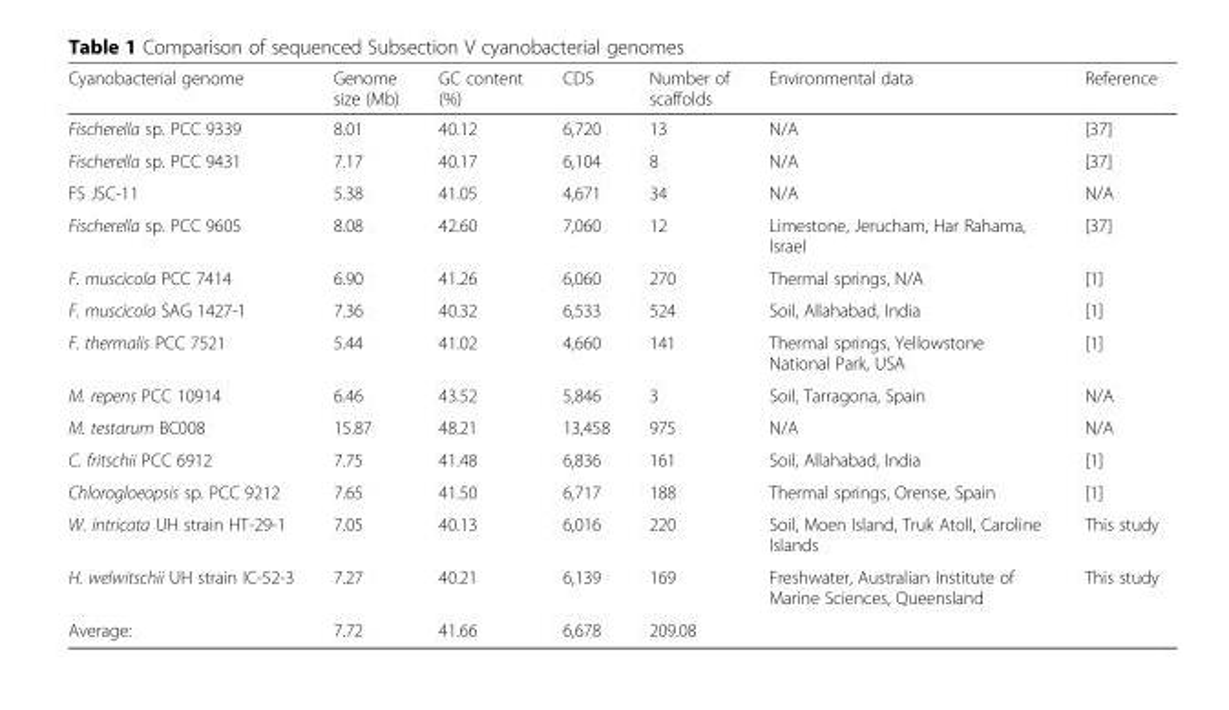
<table><thead><tr><td>Cyanobacterial genome</td><td>Genome size (Mb)</td><td>GC content (%)</td><td>CDS</td><td>Number of scaffolds</td><td>Environmental data</td><td>Reference</td></tr></thead><tbody><tr><td>Fischerella sp. PCC 9339</td><td>8.01</td><td>40.12</td><td>6,720</td><td>13</td><td>N/A</td><td>[37]</td></tr><tr><td>Fischerella sp. PCC 9431</td><td>7.17</td><td>40.17</td><td>6,104</td><td>8</td><td>N/A</td><td>[37]</td></tr><tr><td>FS JSC-11</td><td>5.38</td><td>41.05</td><td>4,671</td><td>34</td><td>N/A</td><td>N/A</td></tr><tr><td>Fischerella sp. PCC 9605</td><td>8.08</td><td>42.60</td><td>7,060</td><td>12</td><td>Limestone, Jerucham, Har Rahama, Israel</td><td>[37]</td></tr><tr><td>F. muscicola PCC 7414</td><td>6.90</td><td>41.26</td><td>6,060</td><td>270</td><td>Thermal springs, N/A</td><td>[1]</td></tr><tr><td>F. muscicola SAG 1427-1</td><td>7.36</td><td>40.32</td><td>6,533</td><td>524</td><td>Soil, Allahabad, India</td><td>[1]</td></tr><tr><td>F. thermalis PCC 7521</td><td>5.44</td><td>41.02</td><td>4,660</td><td>141</td><td>Thermal springs, Yellowstone National Park, USA</td><td>[1]</td></tr><tr><td>M. repens PCC 10914</td><td>6.46</td><td>43.52</td><td>5,846</td><td>3</td><td>Soil, Tarragona, Spain</td><td>N/A</td></tr><tr><td>M. testarum BC008</td><td>15.87</td><td>48.21</td><td>13,458</td><td>975</td><td>N/A</td><td>N/A</td></tr><tr><td>C. fritschii PCC 6912</td><td>7.75</td><td>41.48</td><td>6,836</td><td>161</td><td>Soil, Allahabad, India</td><td>[1]</td></tr><tr><td>Chlorogloeopsis sp. PCC 9212</td><td>7.65</td><td>41.50</td><td>6,717</td><td>188</td><td>Thermal springs, Orense, Spain</td><td>[1]</td></tr><tr><td>W. intricata UH strain HT-29-1</td><td>7.05</td><td>40.13</td><td>6,016</td><td>220</td><td>Soil, Moen Island, Truk Atoll, Caroline Islands</td><td>This study</td></tr><tr><td>H. welwitschii UH strain IC-52-3</td><td>7.27</td><td>40.21</td><td>6,139</td><td>169</td><td>Freshwater, Australian Institute of Marine Sciences, Queensland</td><td>This study</td></tr><tr><td>Average:</td><td>7.72</td><td>41.66</td><td>6,678</td><td>209.08</td><td></td><td></td></tr></tbody></table>